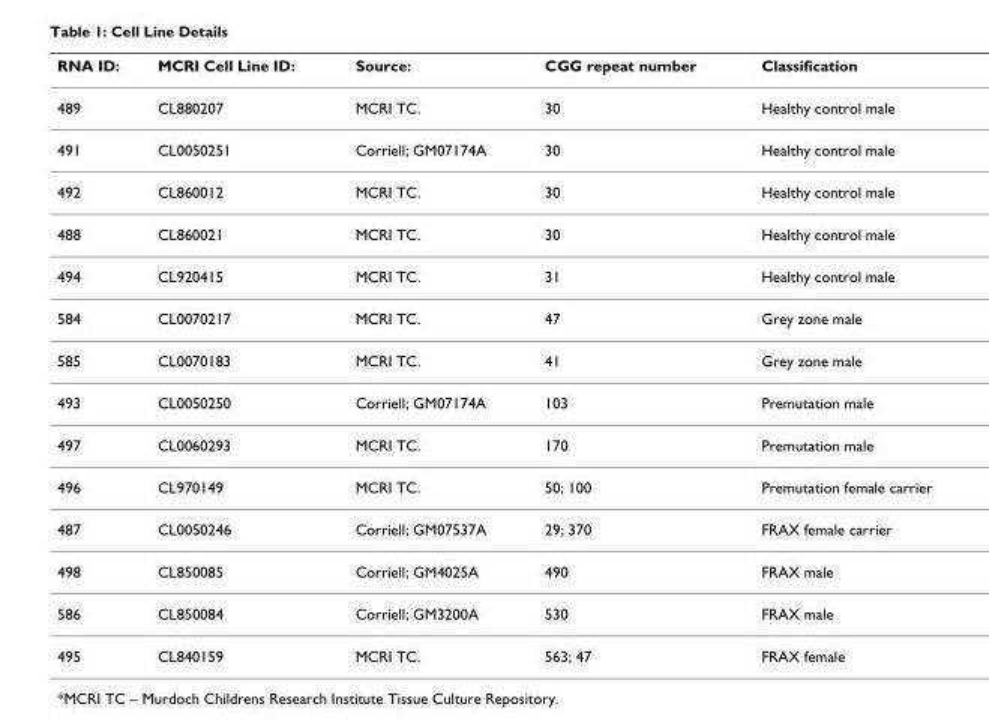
<table><thead><tr><td>RNA ID:</td><td>MCRI Cell Line ID:</td><td>Source:</td><td>CGG repeat number</td><td>Classification</td></tr></thead><tbody><tr><td>489</td><td>CL880207</td><td>MCRI TC.</td><td>30</td><td>Healthy control male</td></tr><tr><td>491</td><td>CL0050251</td><td>Corriell; GM07174A</td><td>30</td><td>Healthy control male</td></tr><tr><td>492</td><td>CL860012</td><td>MCRI TC.</td><td>30</td><td>Healthy control male</td></tr><tr><td>488</td><td>CL860021</td><td>MCRI TC.</td><td>30</td><td>Healthy control male</td></tr><tr><td>494</td><td>CL920415</td><td>MCRI TC.</td><td>31</td><td>Healthy control male</td></tr><tr><td>584</td><td>CL0070217</td><td>MCRI TC.</td><td>47</td><td>Grey zone male</td></tr><tr><td>585</td><td>CL0070183</td><td>MCRI TC.</td><td>41</td><td>Grey zone male</td></tr><tr><td>493</td><td>CL0050250</td><td>Corriell; GM07174A</td><td>103</td><td>Premutation male</td></tr><tr><td>497</td><td>CL0060293</td><td>MCRI TC.</td><td>170</td><td>Premutation male</td></tr><tr><td>496</td><td>CL970149</td><td>MCRI TC.</td><td>50; 100</td><td>Premutation female carrier</td></tr><tr><td>487</td><td>CL0050246</td><td>Corriell; GM07537A</td><td>29; 370</td><td>FRAX female carrier</td></tr><tr><td>498</td><td>CL850085</td><td>Corriell; GM4025A</td><td>490</td><td>FRAX male</td></tr><tr><td>586</td><td>CL850084</td><td>Corriell; GM3200A</td><td>530</td><td>FRAX male</td></tr><tr><td>495</td><td>CL840159</td><td>MCRI TC.</td><td>563; 47</td><td>FRAX female</td></tr></tbody></table>